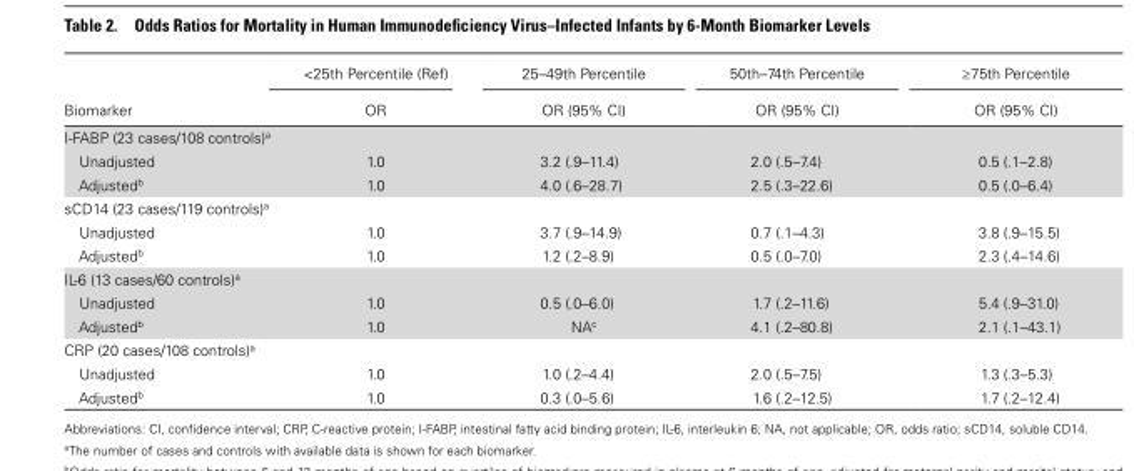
<table><thead><tr><td rowspan="2">Biomarker</td><td rowspan="2">&lt;25th Percentile (Ref) OR</td><td rowspan="2">25–49th Percentile OR (95% CI)</td><td rowspan="2">50th–74th Percentile OR (95% CI)</td><td rowspan="2">≥75th Percentile OR (95% CI)</td></tr><tr></tr></thead><tbody><tr><td colspan="5">I-FABP (23 cases/108 controls)<sup>a</sup></td></tr><tr><td>Unadjusted</td><td>1.0</td><td>3.2 (.9–11.4)</td><td>2.0 (.5–7.4)</td><td>0.5 (.1–2.8)</td></tr><tr><td>Adjusted<sup>b</sup></td><td>1.0</td><td>4.0 (.6–28.7)</td><td>2.5 (.3–22.6)</td><td>0.5 (.0–6.4)</td></tr><tr><td colspan="5">sCD14 (23 cases/119 controls)<sup>a</sup></td></tr><tr><td>Unadjusted</td><td>1.0</td><td>3.7 (.9–14.9)</td><td>0.7 (.1–4.3)</td><td>3.8 (.9–15.5)</td></tr><tr><td>Adjusted<sup>b</sup></td><td>1.0</td><td>1.2 (.2–8.9)</td><td>0.5 (.0–7.0)</td><td>2.3 (.4–14.6)</td></tr><tr><td colspan="5">IL-6 (13 cases/60 controls)<sup>a</sup></td></tr><tr><td>Unadjusted</td><td>1.0</td><td>0.5 (.0–6.0)</td><td>1.7 (.2–11.6)</td><td>5.4 (.9–31.0)</td></tr><tr><td>Adjusted<sup>b</sup></td><td>1.0</td><td>NA<sup>c</sup></td><td>4.1 (.2–80.8)</td><td>2.1 (.1–43.1)</td></tr><tr><td colspan="5">CRP (20 cases/108 controls)<sup>a</sup></td></tr><tr><td>Unadjusted</td><td>1.0</td><td>1.0 (.2–4.4)</td><td>2.0 (.5–7.5)</td><td>1.3 (.3–5.3)</td></tr><tr><td>Adjusted<sup>b</sup></td><td>1.0</td><td>0.3 (.0–5.6)</td><td>1.6 (.2–12.5)</td><td>1.7 (.2–12.4)</td></tr></tbody></table>